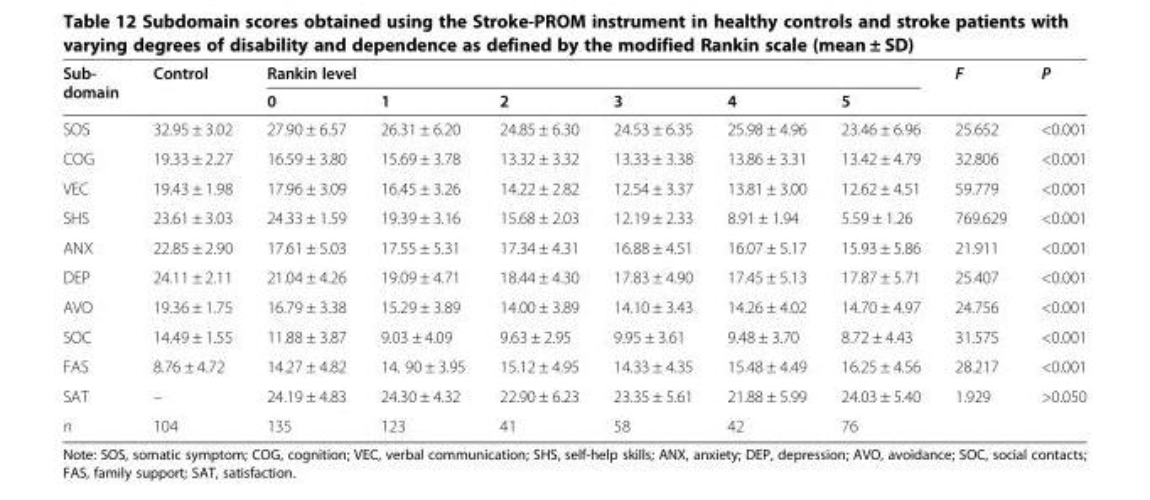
<table><thead><tr><td rowspan="2">Sub- domain</td><td rowspan="2">Control</td><td colspan="6">Rankin level</td><td rowspan="2">F</td><td rowspan="2">P</td></tr><tr><td>0</td><td>1</td><td>2</td><td>3</td><td>4</td><td>5</td></tr></thead><tbody><tr><td>SOS</td><td>32.95 ± 3.02</td><td>27.90 ± 6.57</td><td>26.31 ± 6.20</td><td>24.85 ± 6.30</td><td>24.53 ± 6.35</td><td>25.98 ± 4.96</td><td>23.46 ± 6.96</td><td>25.652</td><td>&lt;0.001</td></tr><tr><td>COG</td><td>19.33 ± 2.27</td><td>16.59 ± 3.80</td><td>15.69 ± 3.78</td><td>13.32 ± 3.32</td><td>13.33 ± 3.38</td><td>13.86 ± 3.31</td><td>13.42 ± 4.79</td><td>32.806</td><td>&lt;0.001</td></tr><tr><td>VEC</td><td>19.43 ± 1.98</td><td>17.96 ± 3.09</td><td>16.45 ± 3.26</td><td>14.22 ± 2.82</td><td>12.54 ± 3.37</td><td>13.81 ± 3.00</td><td>12.62 ± 4.51</td><td>59.779</td><td>&lt;0.001</td></tr><tr><td>SHS</td><td>23.61 ± 3.03</td><td>24.33 ± 1.59</td><td>19.39 ± 3.16</td><td>15.68 ± 2.03</td><td>12.19 ± 2.33</td><td>8.91 ± 1.94</td><td>5.59 ± 1.26</td><td>769.629</td><td>&lt;0.001</td></tr><tr><td>ANX</td><td>22.85 ± 2.90</td><td>17.61 ± 5.03</td><td>17.55 ± 5.31</td><td>17.34 ± 4.31</td><td>16.88 ± 4.51</td><td>16.07 ± 5.17</td><td>15.93 ± 5.86</td><td>21.911</td><td>&lt;0.001</td></tr><tr><td>DEP</td><td>24.11 ± 2.11</td><td>21.04 ± 4.26</td><td>19.09 ± 4.71</td><td>18.44 ± 4.30</td><td>17.83 ± 4.90</td><td>17.45 ± 5.13</td><td>17.87 ± 5.71</td><td>25.407</td><td>&lt;0.001</td></tr><tr><td>AVO</td><td>19.36 ± 1.75</td><td>16.79 ± 3.38</td><td>15.29 ± 3.89</td><td>14.00 ± 3.89</td><td>14.10 ± 3.43</td><td>14.26 ± 4.02</td><td>14.70 ± 4.97</td><td>24.756</td><td>&lt;0.001</td></tr><tr><td>SOC</td><td>14.49 ± 1.55</td><td>11.88 ± 3.87</td><td>9.03 ± 4.09</td><td>9.63 ± 2.95</td><td>9.95 ± 3.61</td><td>9.48 ± 3.70</td><td>8.72 ± 4.43</td><td>31.575</td><td>&lt;0.001</td></tr><tr><td>FAS</td><td>8.76 ± 4.72</td><td>14.27 ± 4.82</td><td>14. 90 ± 3.95</td><td>15.12 ± 4.95</td><td>14.33 ± 4.35</td><td>15.48 ± 4.49</td><td>16.25 ± 4.56</td><td>28.217</td><td>&lt;0.001</td></tr><tr><td>SAT</td><td>–</td><td>24.19 ± 4.83</td><td>24.30 ± 4.32</td><td>22.90 ± 6.23</td><td>23.35 ± 5.61</td><td>21.88 ± 5.99</td><td>24.03 ± 5.40</td><td>1.929</td><td>&gt;0.050</td></tr><tr><td>n</td><td>104</td><td>135</td><td>123</td><td>41</td><td>58</td><td>42</td><td>76</td><td></td><td></td></tr></tbody></table>